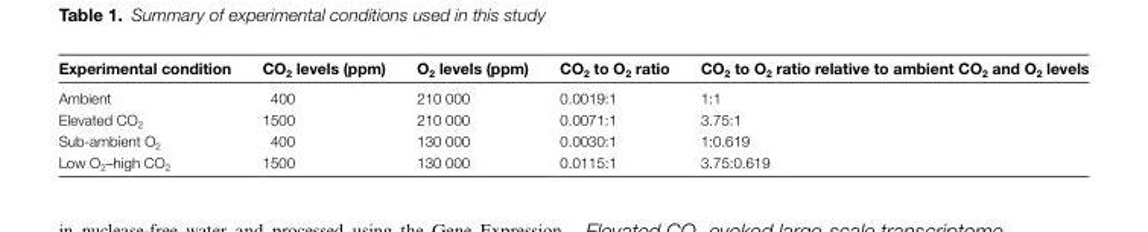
<table><thead><tr><td>Experimental condition</td><td>CO<sub>2</sub> levels (ppm)</td><td>O<sub>2</sub> levels (ppm)</td><td>CO<sub>2</sub> to O<sub>2</sub> ratio</td><td>CO<sub>2</sub> to O<sub>2</sub> ratio relative to ambient CO<sub>2</sub> and O<sub>2</sub> levels</td></tr></thead><tbody><tr><td>Ambient</td><td>400</td><td>210 000</td><td>0.0019:1</td><td>1:1</td></tr><tr><td>Elevated CO<sub>2</sub></td><td>1500</td><td>210 000</td><td>0.0071:1</td><td>3.75:1</td></tr><tr><td>Sub-ambient O<sub>2</sub></td><td>400</td><td>130 000</td><td>0.0030:1</td><td>1:0.619</td></tr><tr><td>Low O<sub>2</sub>–high CO<sub>2</sub></td><td>1500</td><td>130 000</td><td>0.0115:1</td><td>3.75:0.619</td></tr></tbody></table>